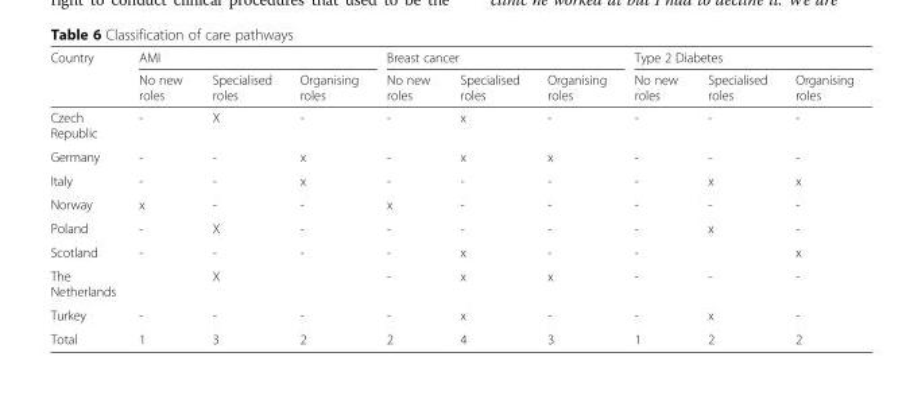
<table><thead><tr><td rowspan="2">Country</td><td colspan="3">AMI</td><td colspan="3">Breast cancer</td><td colspan="3">Type 2 Diabetes</td></tr><tr><td>No new roles</td><td>Specialised roles</td><td>Organising roles</td><td>No new roles</td><td>Specialised roles</td><td>Organising roles</td><td>No new roles</td><td>Specialised roles</td><td>Organising roles</td></tr></thead><tbody><tr><td>Czech Republic</td><td>-</td><td>X</td><td>-</td><td>-</td><td>x</td><td>-</td><td>-</td><td>-</td><td>-</td></tr><tr><td>Germany</td><td>-</td><td>-</td><td>x</td><td>-</td><td>x</td><td>x</td><td>-</td><td>-</td><td>-</td></tr><tr><td>Italy</td><td>-</td><td>-</td><td>x</td><td>-</td><td>-</td><td>-</td><td>-</td><td>x</td><td>x</td></tr><tr><td>Norway</td><td>x</td><td>-</td><td>-</td><td>x</td><td>-</td><td>-</td><td>-</td><td>-</td><td>-</td></tr><tr><td>Poland</td><td>-</td><td>X</td><td>-</td><td>-</td><td>-</td><td>-</td><td>-</td><td>x</td><td>-</td></tr><tr><td>Scotland</td><td>-</td><td>-</td><td>-</td><td>-</td><td>x</td><td>-</td><td>-</td><td></td><td>x</td></tr><tr><td>The Netherlands</td><td></td><td>X</td><td></td><td>-</td><td>x</td><td>x</td><td>-</td><td>-</td><td>-</td></tr><tr><td>Turkey</td><td>-</td><td>-</td><td>-</td><td>-</td><td>x</td><td>-</td><td>-</td><td>x</td><td>-</td></tr><tr><td>Total</td><td>1</td><td>3</td><td>2</td><td>2</td><td>4</td><td>3</td><td>1</td><td>2</td><td>2</td></tr></tbody></table>